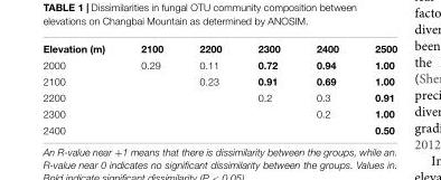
<table><tbody><tr><td>Elevation (m)</td><td>2100</td><td>2200</td><td>2300</td><td>2400</td><td>2500</td></tr><tr><td>2000</td><td>0.29</td><td>0.11</td><td>0.72</td><td>0.94</td><td>1.00</td></tr><tr><td>2100</td><td></td><td>0.23</td><td>0.91</td><td>0.69</td><td>1.00</td></tr><tr><td>2200</td><td></td><td></td><td>0.2</td><td>0.3</td><td>0.91</td></tr><tr><td>2300</td><td></td><td></td><td></td><td>0.2</td><td>1.00</td></tr><tr><td>2400</td><td></td><td></td><td></td><td></td><td>0.50</td></tr></tbody></table>